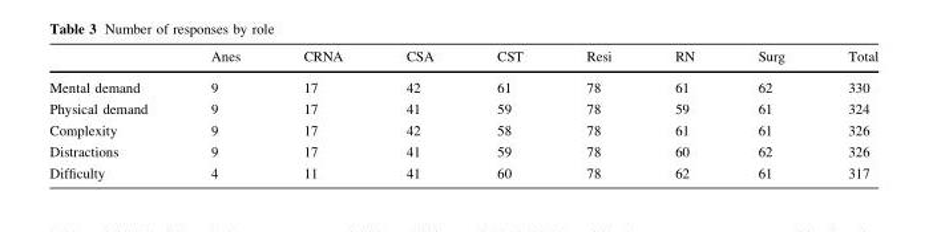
<table><thead><tr><td></td><td>Anes</td><td>CRNA</td><td>CSA</td><td>CST</td><td>Resi</td><td>RN</td><td>Surg</td><td>Total</td></tr></thead><tbody><tr><td>Mental demand</td><td>9</td><td>17</td><td>42</td><td>61</td><td>78</td><td>61</td><td>62</td><td>330</td></tr><tr><td>Physical demand</td><td>9</td><td>17</td><td>41</td><td>59</td><td>78</td><td>59</td><td>61</td><td>324</td></tr><tr><td>Complexity</td><td>9</td><td>17</td><td>42</td><td>58</td><td>78</td><td>61</td><td>61</td><td>326</td></tr><tr><td>Distractions</td><td>9</td><td>17</td><td>41</td><td>59</td><td>78</td><td>60</td><td>62</td><td>326</td></tr><tr><td>Difficulty</td><td>4</td><td>11</td><td>41</td><td>60</td><td>78</td><td>62</td><td>61</td><td>317</td></tr></tbody></table>